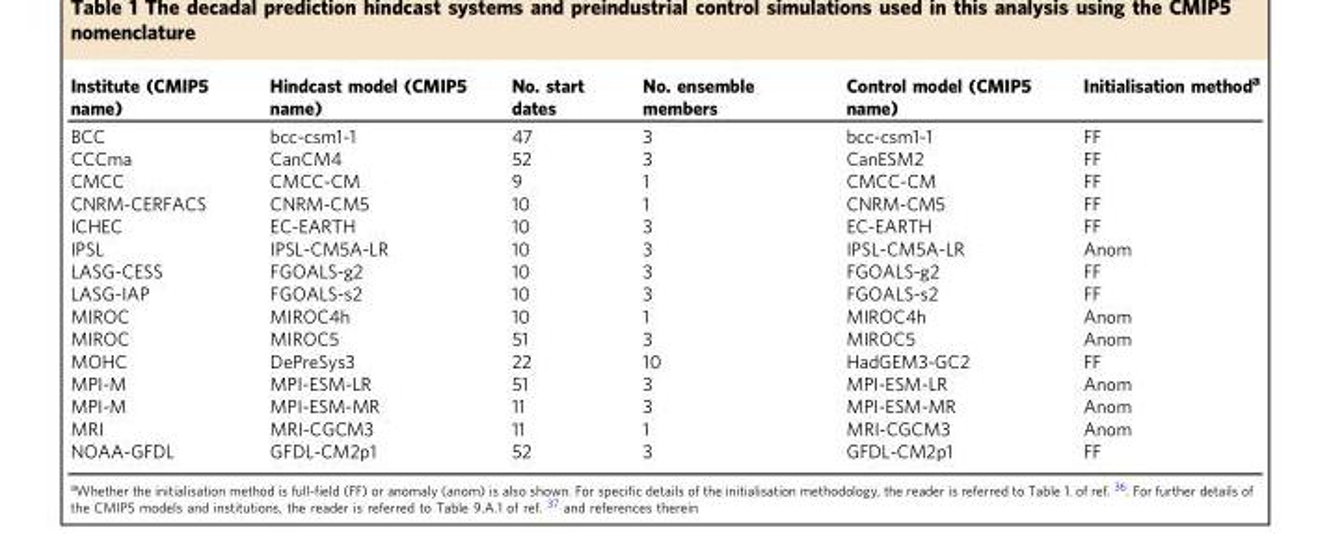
<table><thead><tr><td>Institute (CMIP5 name)</td><td>Hindcast model (CMIP5 name)</td><td>No. start dates</td><td>No. ensemble members</td><td>Control model (CMIP5 name)</td><td>Initialisation method<sup>a</sup></td></tr></thead><tbody><tr><td>BCC</td><td>bcc-csm1-1</td><td>47</td><td>3</td><td>bcc-csm1-1</td><td>FF</td></tr><tr><td>CCCma</td><td>CanCM4</td><td>52</td><td>3</td><td>CanESM2</td><td>FF</td></tr><tr><td>CMCC</td><td>CMCC-CM</td><td>9</td><td>1</td><td>CMCC-CM</td><td>FF</td></tr><tr><td>CNRM-CERFACS</td><td>CNRM-CM5</td><td>10</td><td>1</td><td>CNRM-CM5</td><td>FF</td></tr><tr><td>ICHEC</td><td>EC-EARTH</td><td>10</td><td>3</td><td>EC-EARTH</td><td>FF</td></tr><tr><td>IPSL</td><td>IPSL-CM5A-LR</td><td>10</td><td>3</td><td>IPSL-CM5A-LR</td><td>Anom</td></tr><tr><td>LASG-CESS</td><td>FGOALS-g2</td><td>10</td><td>3</td><td>FGOALS-g2</td><td>FF</td></tr><tr><td>LASG-IAP</td><td>FGOALS-s2</td><td>10</td><td>3</td><td>FGOALS-s2</td><td>FF</td></tr><tr><td>MIROC</td><td>MIROC4h</td><td>10</td><td>1</td><td>MIROC4h</td><td>Anom</td></tr><tr><td>MIROC</td><td>MIROC5</td><td>51</td><td>3</td><td>MIROC5</td><td>Anom</td></tr><tr><td>MOHC</td><td>DePreSys3</td><td>22</td><td>10</td><td>HadGEM3-GC2</td><td>FF</td></tr><tr><td>MPI-M</td><td>MPI-ESM-LR</td><td>51</td><td>3</td><td>MPI-ESM-LR</td><td>Anom</td></tr><tr><td>MPI-M</td><td>MPI-ESM-MR</td><td>11</td><td>3</td><td>MPI-ESM-MR</td><td>Anom</td></tr><tr><td>MRI</td><td>MRI-CGCM3</td><td>11</td><td>1</td><td>MRI-CGCM3</td><td>Anom</td></tr><tr><td>NOAA-GFDL</td><td>GFDL-CM2p1</td><td>52</td><td>3</td><td>GFDL-CM2p1</td><td>FF</td></tr></tbody></table>